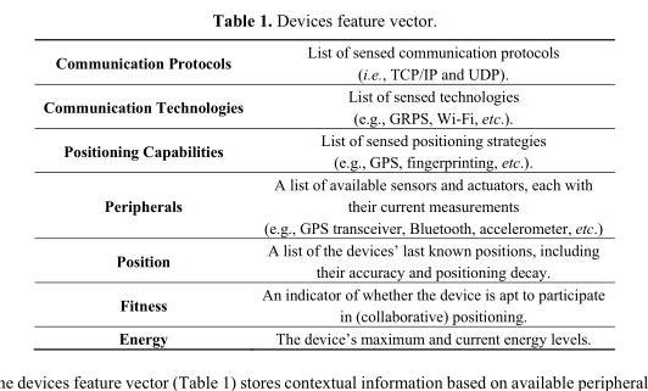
<table><tbody><tr><td>Communication Protocols</td><td>List of sensed communication protocols (i.e., TCP/IP and UDP).</td></tr><tr><td>Communication Technologies</td><td>List of sensed technologies (e.g., GRPS, Wi-Fi, etc.).</td></tr><tr><td>Positioning Capabilities</td><td>List of sensed positioning strategies (e.g., GPS, fingerprinting, etc.).</td></tr><tr><td>Peripherals</td><td>A list of available sensors and actuators, each with their current measurements (e.g., GPS transceiver, Bluetooth, accelerometer, etc.)</td></tr><tr><td>Position</td><td>A list of the devices’ last known positions, including their accuracy and positioning decay.</td></tr><tr><td>Fitness</td><td>An indicator of whether the device is apt to participate in (collaborative) positioning.</td></tr><tr><td>Energy</td><td>The device’s maximum and current energy levels.</td></tr></tbody></table>